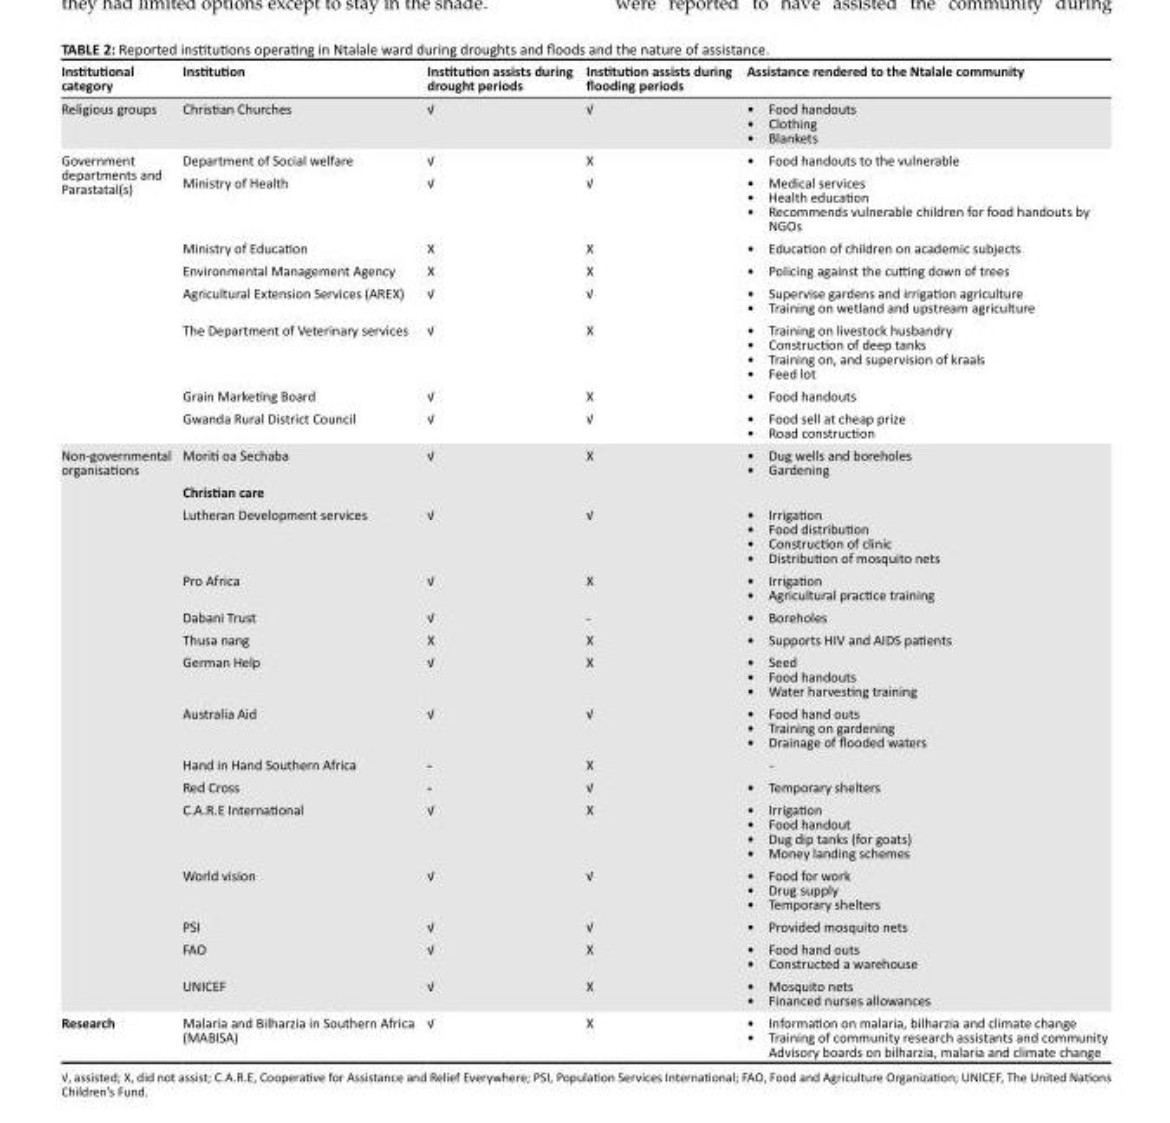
<table><thead><tr><td>Institutional category</td><td>Institution</td><td>Institution assists during drought periods</td><td>Institution assists during flooding periods</td><td>Assistance rendered to the Ntalale community</td></tr></thead><tbody><tr><td>Religious groups</td><td>Christian Churches</td><td>√</td><td>√</td><td>• Food handouts • Clothing • Blankets</td></tr><tr><td rowspan="8">Government departments and Parastatal(s)</td><td>Department of Social welfare</td><td>√</td><td>X</td><td>• Food handouts to the vulnerable</td></tr><tr><td>Ministry of Health</td><td>√</td><td>√</td><td>• Medical services • Health education • Recommends vulnerable children for food handouts by NGOs</td></tr><tr><td>Ministry of Education</td><td>X</td><td>X</td><td>• Education of children on academic subjects</td></tr><tr><td>Environmental Management Agency</td><td>X</td><td>X</td><td>• Policing against the cutting down of trees</td></tr><tr><td>Agricultural Extension Services (AREX)</td><td>√</td><td>√</td><td>• Supervise gardens and irrigation agriculture • Training on wetland and upstream agriculture</td></tr><tr><td>The Department of Veterinary services</td><td>√</td><td>X</td><td>• Training on livestock husbandry • Construction of deep tanks • Training on, and supervision of kraals • Feed lot</td></tr><tr><td>Grain Marketing Board</td><td>√</td><td>X</td><td>• Food handouts</td></tr><tr><td>Gwanda Rural District Council</td><td>√</td><td>√</td><td>• Food sell at cheap prize • Road construction</td></tr><tr><td rowspan="15">Non-governmental organisations</td><td>Moriti oa Sechaba</td><td>√</td><td>X</td><td>• Dug wells and boreholes • Gardening</td></tr><tr><td colspan="4">Christian care</td></tr><tr><td>Lutheran Development services</td><td>√</td><td>√</td><td>• Irrigation • Food distribution • Construction of clinic • Distribution of mosquito nets</td></tr><tr><td>Pro Africa</td><td>√</td><td>X</td><td>• Irrigation • Agricultural practice training</td></tr><tr><td>Dabani Trust</td><td>√</td><td>-</td><td>• Boreholes</td></tr><tr><td>Thusa nang</td><td>X</td><td>X</td><td>• Supports HIV and AIDS patients</td></tr><tr><td>German Help</td><td>√</td><td>X</td><td>• Seed • Food handouts • Water harvesting training</td></tr><tr><td>Australia Aid</td><td>√</td><td>√</td><td>• Food hand outs • Training on gardening • Drainage of flooded waters</td></tr><tr><td>Hand in Hand Southern Africa</td><td>-</td><td>X</td><td>-</td></tr><tr><td>Red Cross</td><td>-</td><td>√</td><td>• Temporary shelters</td></tr><tr><td>C.A.R.E International</td><td>√</td><td>X</td><td>• Irrigation • Food handout • Dug dip tanks (for goats) • Money landing schemes</td></tr><tr><td>World vision</td><td>√</td><td>√</td><td>• Food for work • Drug supply • Temporary shelters</td></tr><tr><td>PSI</td><td>√</td><td>√</td><td>• Provided mosquito nets</td></tr><tr><td>FAO</td><td>√</td><td>X</td><td>• Food hand outs • Constructed a warehouse</td></tr><tr><td>UNICEF</td><td>√</td><td>X</td><td>• Mosquito nets • Financed nurses allowances</td></tr><tr><td>Research</td><td>Malaria and Bilharzia in Southern Africa (MABISA)</td><td>√</td><td>X</td><td>• Information on malaria, bilharzia and climate change • Training of community research assistants and community Advisory boards on bilharzia, malaria and climate change</td></tr></tbody></table>